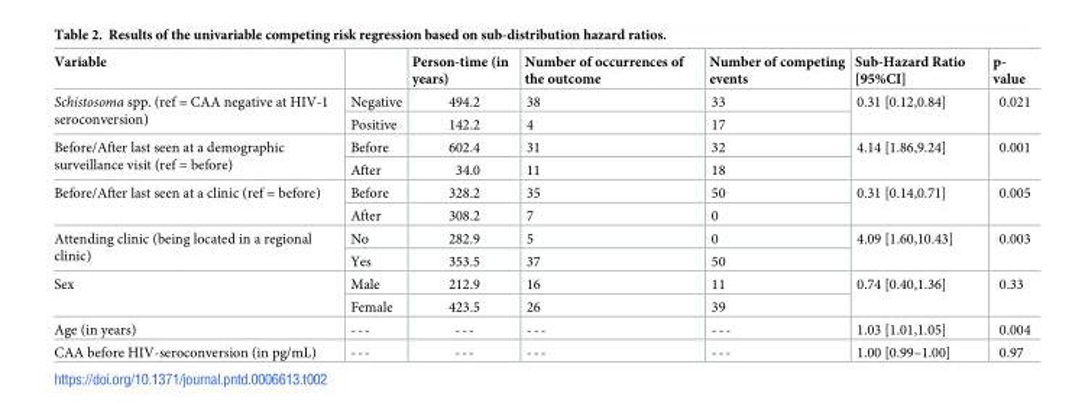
<table><thead><tr><td>Variable</td><td></td><td>Person-time (in years)</td><td>Number of occurrences of the outcome</td><td>Number of competing events</td><td>Sub-Hazard Ratio [95%CI]</td><td>p- value</td></tr></thead><tbody><tr><td rowspan="2">Schistosoma spp. (ref = CAA negative at HIV-1 seroconversion)</td><td>Negative</td><td>494.2</td><td>38</td><td>33</td><td rowspan="2">0.31 [0.12,0.84]</td><td rowspan="2">0.021</td></tr><tr><td>Positive</td><td>142.2</td><td>4</td><td>17</td></tr><tr><td rowspan="2">Before/After last seen at a demographic surveillance visit (ref = before)</td><td>Before</td><td>602.4</td><td>31</td><td>32</td><td rowspan="2">4.14 [1.86,9.24]</td><td rowspan="2">0.001</td></tr><tr><td>After</td><td>34.0</td><td>11</td><td>18</td></tr><tr><td rowspan="2">Before/After last seen at a clinic (ref = before)</td><td>Before</td><td>328.2</td><td>35</td><td>50</td><td rowspan="2">0.31 [0.14,0.71]</td><td rowspan="2">0.005</td></tr><tr><td>After</td><td>308.2</td><td>7</td><td>0</td></tr><tr><td rowspan="2">Attending clinic (being located in a regional clinic)</td><td>No</td><td>282.9</td><td>5</td><td>0</td><td rowspan="2">4.09 [1.60,10.43]</td><td rowspan="2">0.003</td></tr><tr><td>Yes</td><td>353.5</td><td>37</td><td>50</td></tr><tr><td rowspan="2">Sex</td><td>Male</td><td>212.9</td><td>16</td><td>11</td><td rowspan="2">0.74 [0.40,1.36]</td><td rowspan="2">0.33</td></tr><tr><td>Female</td><td>423.5</td><td>26</td><td>39</td></tr><tr><td>Age (in years)</td><td>---</td><td>---</td><td>---</td><td>---</td><td>1.03 [1.01,1.05]</td><td>0.004</td></tr><tr><td>CAA before HIV-seroconversion (in pg/mL)</td><td>---</td><td>---</td><td>---</td><td>---</td><td>1.00 [0.99–1.00]</td><td>0.97</td></tr></tbody></table>